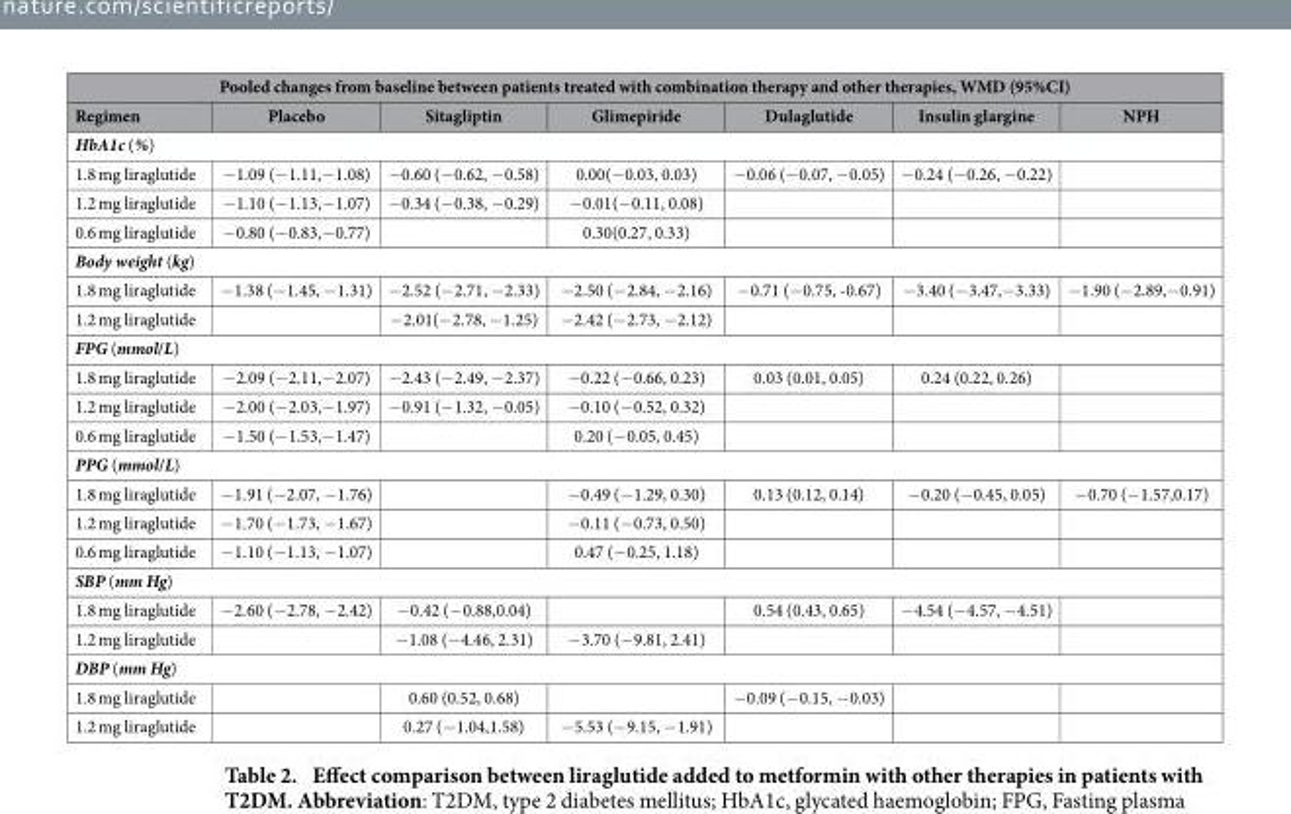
<table><thead><tr><td colspan="7">Pooled changes from baseline between patients treated with combination therapy and other therapies, WMD (95%CI)</td></tr><tr><td>Regimen</td><td>Placebo</td><td>Sitagliptin</td><td>Glimepiride</td><td>Dulaglutide</td><td>Insulin glargine</td><td>NPH</td></tr></thead><tbody><tr><td colspan="7">HbA1c (%)</td></tr><tr><td>1.8 mg liraglutide</td><td>− 1.09 (− 1.11,− 1.08)</td><td>− 0.60 (− 0.62, − 0.58)</td><td>0.00(− 0.03, 0.03)</td><td>− 0.06 (− 0.07, − 0.05)</td><td>− 0.24 (− 0.26, − 0.22)</td><td></td></tr><tr><td>1.2 mg liraglutide</td><td>− 1.10 (− 1.13,− 1.07)</td><td>− 0.34 (− 0.38, − 0.29)</td><td>− 0.01(− 0.11, 0.08)</td><td></td><td></td><td></td></tr><tr><td>0.6 mg liraglutide</td><td>− 0.80 (− 0.83,− 0.77)</td><td></td><td>0.30(0.27, 0.33)</td><td></td><td></td><td></td></tr><tr><td colspan="7">Body weight (kg)</td></tr><tr><td>1.8 mg liraglutide</td><td>− 1.38 (− 1.45, − 1.31)</td><td>− 2.52 (− 2.71, − 2.33)</td><td>− 2.50 (− 2.84, − 2.16)</td><td>− 0.71 (− 0.75, -0.67)</td><td>− 3.40 (− 3.47,− 3.33)</td><td>− 1.90 (− 2.89,− 0.91)</td></tr><tr><td>1.2 mg liraglutide</td><td></td><td>− 2.01(− 2.78, − 1.25)</td><td>− 2.42 (− 2.73, − 2.12)</td><td></td><td></td><td></td></tr><tr><td colspan="7">FPG (mmol/L)</td></tr><tr><td>1.8 mg liraglutide</td><td>− 2.09 (− 2.11,− 2.07)</td><td>− 2.43 (− 2.49, − 2.37)</td><td>− 0.22 (− 0.66, 0.23)</td><td>0.03 (0.01, 0.05)</td><td>0.24 (0.22, 0.26)</td><td></td></tr><tr><td>1.2 mg liraglutide</td><td>− 2.00 (− 2.03,− 1.97)</td><td>− 0.91 (− 1.32, − 0.05)</td><td>− 0.10 (− 0.52, 0.32)</td><td></td><td></td><td></td></tr><tr><td>0.6 mg liraglutide</td><td>− 1.50 (− 1.53,− 1.47)</td><td></td><td>0.20 (− 0.05, 0.45)</td><td></td><td></td><td></td></tr><tr><td colspan="7">PPG (mmol/L)</td></tr><tr><td>1.8 mg liraglutide</td><td>− 1.91 (− 2.07, − 1.76)</td><td></td><td>− 0.49 (− 1.29, 0.30)</td><td>0.13 (0.12, 0.14)</td><td>− 0.20 (− 0.45, 0.05)</td><td>− 0.70 (− 1.57,0.17)</td></tr><tr><td>1.2 mg liraglutide</td><td>− 1.70 (− 1.73, − 1.67)</td><td></td><td>− 0.11 (− 0.73, 0.50)</td><td></td><td></td><td></td></tr><tr><td>0.6 mg liraglutide</td><td>− 1.10 (− 1.13, − 1.07)</td><td></td><td>0.47 (− 0.25, 1.18)</td><td></td><td></td><td></td></tr><tr><td colspan="7">SBP (mm Hg)</td></tr><tr><td>1.8 mg liraglutide</td><td>− 2.60 (− 2.78, − 2.42)</td><td>− 0.42 (− 0.88,0.04)</td><td></td><td>0.54 (0.43, 0.65)</td><td>− 4.54 (− 4.57, − 4.51)</td><td></td></tr><tr><td>1.2 mg liraglutide</td><td></td><td>− 1.08 (− 4.46, 2.31)</td><td>− 3.70 (− 9.81, 2.41)</td><td></td><td></td><td></td></tr><tr><td colspan="7">DBP (mm Hg)</td></tr><tr><td>1.8 mg liraglutide</td><td></td><td>0.60 (0.52, 0.68)</td><td></td><td>− 0.09 (− 0.15, − 0.03)</td><td></td><td></td></tr><tr><td>1.2 mg liraglutide</td><td></td><td>0.27 (− 1.04,1.58)</td><td>− 5.53 (− 9.15, − 1.91)</td><td></td><td></td><td></td></tr></tbody></table>